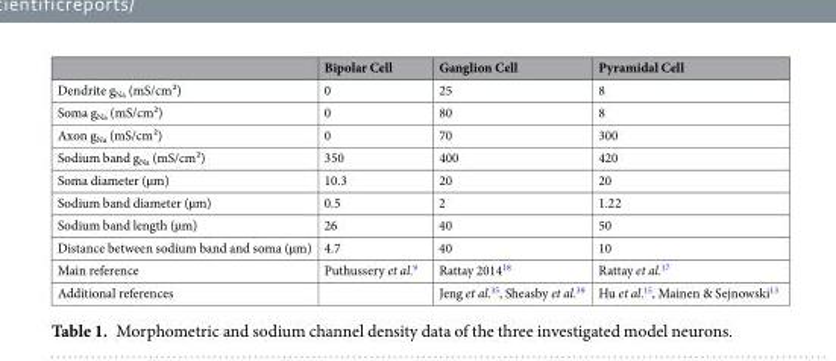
<table><thead><tr><td></td><td>Bipolar Cell</td><td>Ganglion Cell</td><td>Pyramidal Cell</td></tr></thead><tbody><tr><td>Dendrite g<sub>Na</sub> (mS/cm²)</td><td>0</td><td>25</td><td>8</td></tr><tr><td>Soma g<sub>Na</sub> (mS/cm²)</td><td>0</td><td>80</td><td>8</td></tr><tr><td>Axon g<sub>Na</sub> (mS/cm²)</td><td>0</td><td>70</td><td>300</td></tr><tr><td>Sodium band g<sub>Na</sub> (mS/cm²)</td><td>350</td><td>400</td><td>420</td></tr><tr><td>Soma diameter (µm)</td><td>10.3</td><td>20</td><td>20</td></tr><tr><td>Sodium band diameter (µm)</td><td>0.5</td><td>2</td><td>1.22</td></tr><tr><td>Sodium band length (µm)</td><td>26</td><td>40</td><td>50</td></tr><tr><td>Distance between sodium band and soma (µm)</td><td>4.7</td><td>40</td><td>10</td></tr><tr><td>Main reference</td><td>Puthussery et al.<sup>9</sup></td><td>Rattay 2014<sup>18</sup></td><td>Rattay et al.<sup>17</sup></td></tr><tr><td>Additional references</td><td></td><td>Jeng et al.<sup>35</sup>, Sheasby et al.<sup>39</sup></td><td>Hu et al.<sup>15</sup>, Mainen &amp; Sejnowski<sup>13</sup></td></tr></tbody></table>